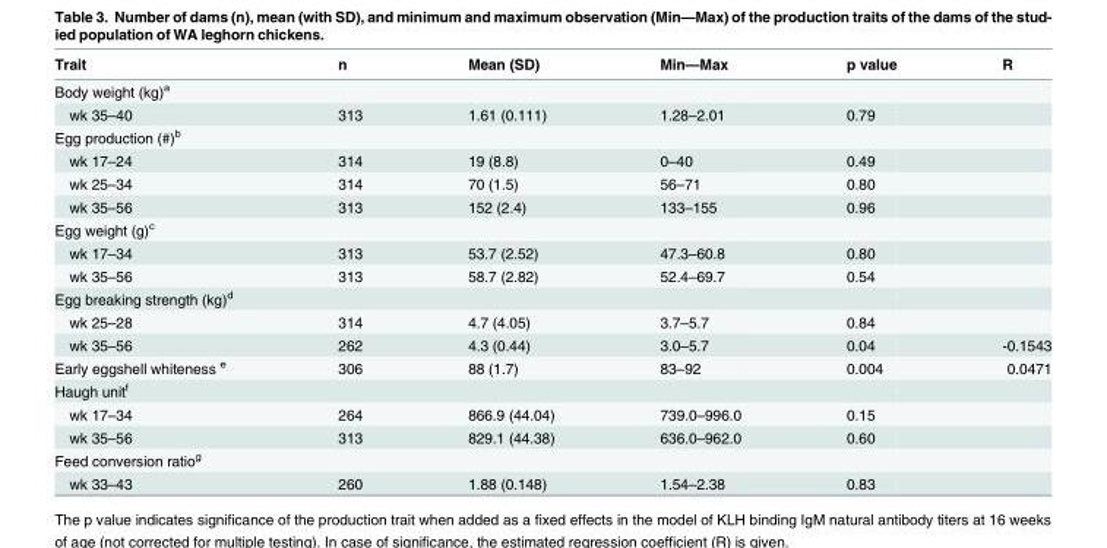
<table><thead><tr><td>Trait</td><td>n</td><td>Mean (SD)</td><td>Min—Max</td><td>p value</td><td>R</td></tr></thead><tbody><tr><td colspan="6">Body weight (kg)<sup>a</sup></td></tr><tr><td>wk 35–40</td><td>313</td><td>1.61 (0.111)</td><td>1.28–2.01</td><td>0.79</td><td></td></tr><tr><td colspan="6">Egg production (#)<sup>b</sup></td></tr><tr><td>wk 17–24</td><td>314</td><td>19 (8.8)</td><td>0–40</td><td>0.49</td><td></td></tr><tr><td>wk 25–34</td><td>314</td><td>70 (1.5)</td><td>56–71</td><td>0.80</td><td></td></tr><tr><td>wk 35–56</td><td>313</td><td>152 (2.4)</td><td>133–155</td><td>0.96</td><td></td></tr><tr><td colspan="6">Egg weight (g)<sup>c</sup></td></tr><tr><td>wk 17–34</td><td>313</td><td>53.7 (2.52)</td><td>47.3–60.8</td><td>0.80</td><td></td></tr><tr><td>wk 35–56</td><td>313</td><td>58.7 (2.82)</td><td>52.4–69.7</td><td>0.54</td><td></td></tr><tr><td colspan="6">Egg breaking strength (kg)<sup>d</sup></td></tr><tr><td>wk 25–28</td><td>314</td><td>4.7 (4.05)</td><td>3.7–5.7</td><td>0.84</td><td></td></tr><tr><td>wk 35–56</td><td>262</td><td>4.3 (0.44)</td><td>3.0–5.7</td><td>0.04</td><td>-0.1543</td></tr><tr><td>Early eggshell whiteness <sup>e</sup></td><td>306</td><td>88 (1.7)</td><td>83–92</td><td>0.004</td><td>0.0471</td></tr><tr><td colspan="6">Haugh unit<sup>f</sup></td></tr><tr><td>wk 17–34</td><td>264</td><td>866.9 (44.04)</td><td>739.0–996.0</td><td>0.15</td><td></td></tr><tr><td>wk 35–56</td><td>313</td><td>829.1 (44.38)</td><td>636.0–962.0</td><td>0.60</td><td></td></tr><tr><td colspan="6">Feed conversion ratio<sup>g</sup></td></tr><tr><td>wk 33–43</td><td>260</td><td>1.88 (0.148)</td><td>1.54–2.38</td><td>0.83</td><td></td></tr></tbody></table>